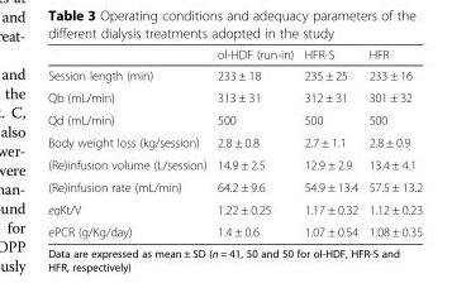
<table><thead><tr><td></td><td>ol-HDF (run-in)</td><td>HFR-S</td><td>HFR</td></tr></thead><tbody><tr><td>Session length (min)</td><td>233 ± 18</td><td>235 ± 25</td><td>233 ± 16</td></tr><tr><td>Qb (mL/min)</td><td>313 ± 31</td><td>312 ± 31</td><td>301 ± 32</td></tr><tr><td>Qd (mL/min)</td><td>500</td><td>500</td><td>500</td></tr><tr><td>Body weight loss (kg/session)</td><td>2.8 ± 0.8</td><td>2.7 ± 1.1</td><td>2.8 ± 0.9</td></tr><tr><td>(Re)infusion volume (L/session)</td><td>14.9 ± 2.5</td><td>12.9 ± 2.9</td><td>13.4 ± 4.1</td></tr><tr><td>(Re)infusion rate (mL/min)</td><td>64.2 ± 9.6</td><td>54.9 ± 13.4</td><td>57.5 ± 13.2</td></tr><tr><td>eqKt/V</td><td>1.22 ± 0.25</td><td>1.17 ± 0.32</td><td>1.12 ± 0.23</td></tr><tr><td>ePCR (g/Kg/day)</td><td>1.4 ± 0.6</td><td>1.07 ± 0.54</td><td>1.08 ± 0.35</td></tr></tbody></table>